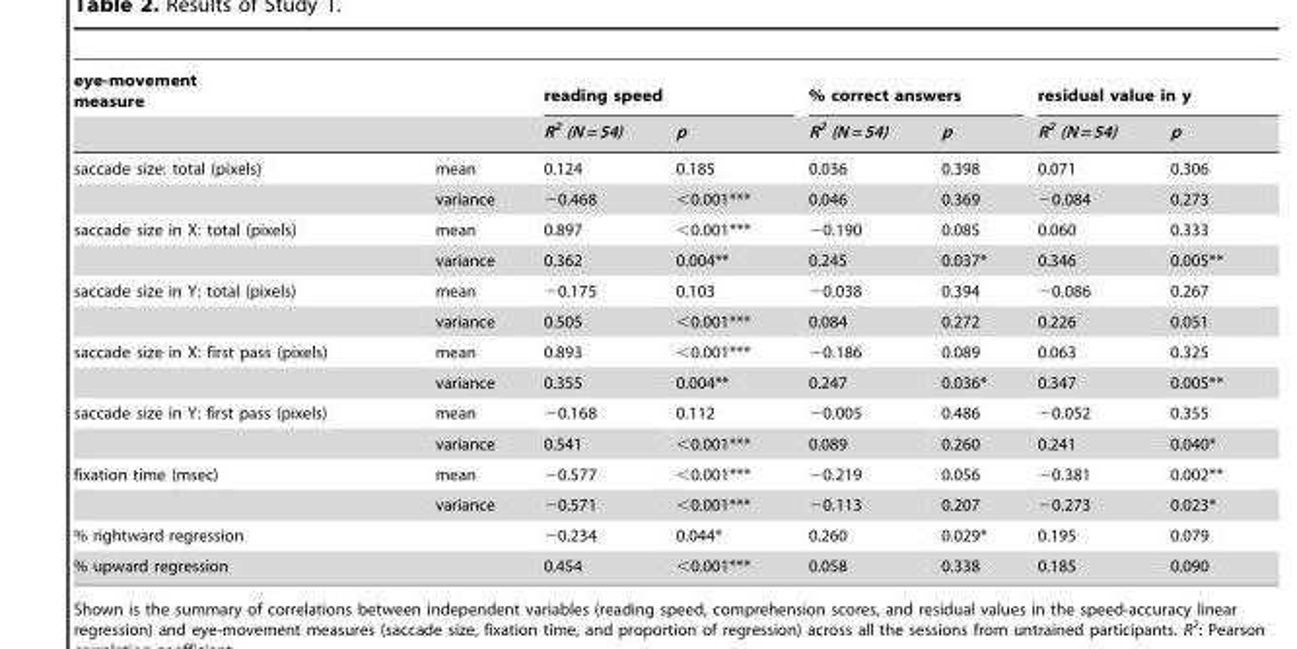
<table><thead><tr><td colspan="2">eye-movement measure</td><td colspan="2">reading speed</td><td colspan="2">% correct answers</td><td colspan="2">residual value in y</td></tr><tr><td></td><td></td><td>R<sup>2</sup> (N = 54)</td><td>p</td><td>R<sup>2</sup> (N = 54)</td><td>p</td><td>R<sup>2</sup> (N = 54)</td><td>p</td></tr></thead><tbody><tr><td rowspan="2">saccade size: total (pixels)</td><td>mean</td><td>0.124</td><td>0.185</td><td>0.036</td><td>0.398</td><td>0.071</td><td>0.306</td></tr><tr><td>variance</td><td>−0.468</td><td>&lt;0.001***</td><td>0.046</td><td>0.369</td><td>−0.084</td><td>0.273</td></tr><tr><td rowspan="2">saccade size in X: total (pixels)</td><td>mean</td><td>0.897</td><td>&lt;0.001***</td><td>−0.190</td><td>0.085</td><td>0.060</td><td>0.333</td></tr><tr><td>variance</td><td>0.362</td><td>0.004**</td><td>0.245</td><td>0.037*</td><td>0.346</td><td>0.005**</td></tr><tr><td rowspan="2">saccade size in Y: total (pixels)</td><td>mean</td><td>−0.175</td><td>0.103</td><td>−0.038</td><td>0.394</td><td>−0.086</td><td>0.267</td></tr><tr><td>variance</td><td>0.505</td><td>&lt;0.001***</td><td>0.084</td><td>0.272</td><td>0.226</td><td>0.051</td></tr><tr><td rowspan="2">saccade size in X: first pass (pixels)</td><td>mean</td><td>0.893</td><td>&lt;0.001***</td><td>−0.186</td><td>0.089</td><td>0.063</td><td>0.325</td></tr><tr><td>variance</td><td>0.355</td><td>0.004**</td><td>0.247</td><td>0.036*</td><td>0.347</td><td>0.005**</td></tr><tr><td rowspan="2">saccade size in Y: first pass (pixels)</td><td>mean</td><td>−0.168</td><td>0.112</td><td>−0.005</td><td>0.486</td><td>−0.052</td><td>0.355</td></tr><tr><td>variance</td><td>0.541</td><td>&lt;0.001***</td><td>0.089</td><td>0.260</td><td>0.241</td><td>0.040*</td></tr><tr><td rowspan="2">fixation time (msec)</td><td>mean</td><td>−0.577</td><td>&lt;0.001***</td><td>−0.219</td><td>0.056</td><td>−0.381</td><td>0.002**</td></tr><tr><td>variance</td><td>−0.571</td><td>&lt;0.001***</td><td>−0.113</td><td>0.207</td><td>−0.273</td><td>0.023*</td></tr><tr><td>% rightward regression</td><td></td><td>−0.234</td><td>0.044*</td><td>0.260</td><td>0.029*</td><td>0.195</td><td>0.079</td></tr><tr><td>% upward regression</td><td></td><td>0.454</td><td>&lt;0.001***</td><td>0.058</td><td>0.338</td><td>0.185</td><td>0.090</td></tr></tbody></table>